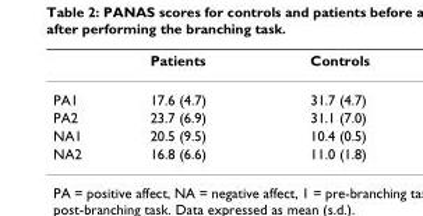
<table><thead><tr><td></td><td>Patients</td><td>Controls</td></tr></thead><tbody><tr><td>PA1</td><td>17.6 (4.7)</td><td>31.7 (4.7)</td></tr><tr><td>PA2</td><td>23.7 (6.9)</td><td>31.1 (7.0)</td></tr><tr><td>NA1</td><td>20.5 (9.5)</td><td>10.4 (0.5)</td></tr><tr><td>NA2</td><td>16.8 (6.6)</td><td>11.0 (1.8)</td></tr></tbody></table>